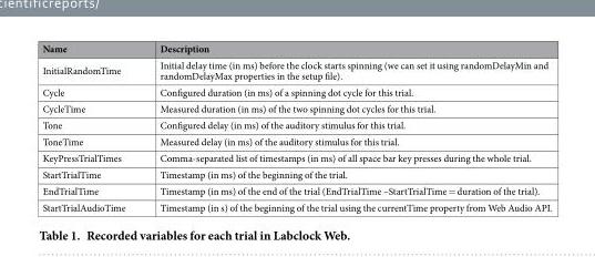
<table><thead><tr><td>Name</td><td>Description</td></tr></thead><tbody><tr><td>InitialRandomTime</td><td>Initial delay time (in ms) before the clock starts spinning (we can set it using randomDelayMin and randomDelayMax properties in the setup file).</td></tr><tr><td>Cycle</td><td>Configured duration (in ms) of a spinning dot cycle for this trial.</td></tr><tr><td>CycleTime</td><td>Measured duration (in ms) of the two spinning dot cycles for this trial.</td></tr><tr><td>Tone</td><td>Configured delay (in ms) of the auditory stimulus for this trial.</td></tr><tr><td>ToneTime</td><td>Measured delay (in ms) of the auditory stimulus for this trial.</td></tr><tr><td>KeyPressTrialTimes</td><td>Comma-separated list of timestamps (in ms) of all space bar key presses during the whole trial.</td></tr><tr><td>StartTrialTime</td><td>Timestamp (in ms) of the beginning of the trial.</td></tr><tr><td>EndTrialTime</td><td>Timestamp (in ms) of the end of the trial (EndTrialTime –StartTrialTime = duration of the trial).</td></tr><tr><td>StartTrialAudioTime</td><td>Timestamp (in s) of the beginning of the trial using the currentTime property from Web Audio API.</td></tr></tbody></table>